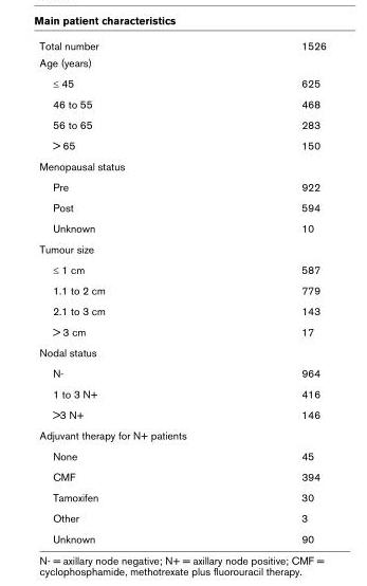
<table><tbody><tr><td>Total number</td><td>1526</td></tr><tr><td colspan="2">Age (years)</td></tr><tr><td>≤ 45</td><td>625</td></tr><tr><td>46 to 55</td><td>468</td></tr><tr><td>56 to 65</td><td>283</td></tr><tr><td>&gt; 65</td><td>150</td></tr><tr><td colspan="2">Menopausal status</td></tr><tr><td>Pre</td><td>922</td></tr><tr><td>Post</td><td>594</td></tr><tr><td>Unknown</td><td>10</td></tr><tr><td colspan="2">Tumour size</td></tr><tr><td>≤ 1 cm</td><td>587</td></tr><tr><td>1.1 to 2 cm</td><td>779</td></tr><tr><td>2.1 to 3 cm</td><td>143</td></tr><tr><td>&gt; 3 cm</td><td>17</td></tr><tr><td colspan="2">Nodal status</td></tr><tr><td>N-</td><td>964</td></tr><tr><td>1 to 3 N+</td><td>416</td></tr><tr><td>&gt;3 N+</td><td>146</td></tr><tr><td colspan="2">Adjuvant therapy for N+ patients</td></tr><tr><td>None</td><td>45</td></tr><tr><td>CMF</td><td>394</td></tr><tr><td>Tamoxifen</td><td>30</td></tr><tr><td>Other</td><td>3</td></tr><tr><td>Unknown</td><td>90</td></tr></tbody></table>